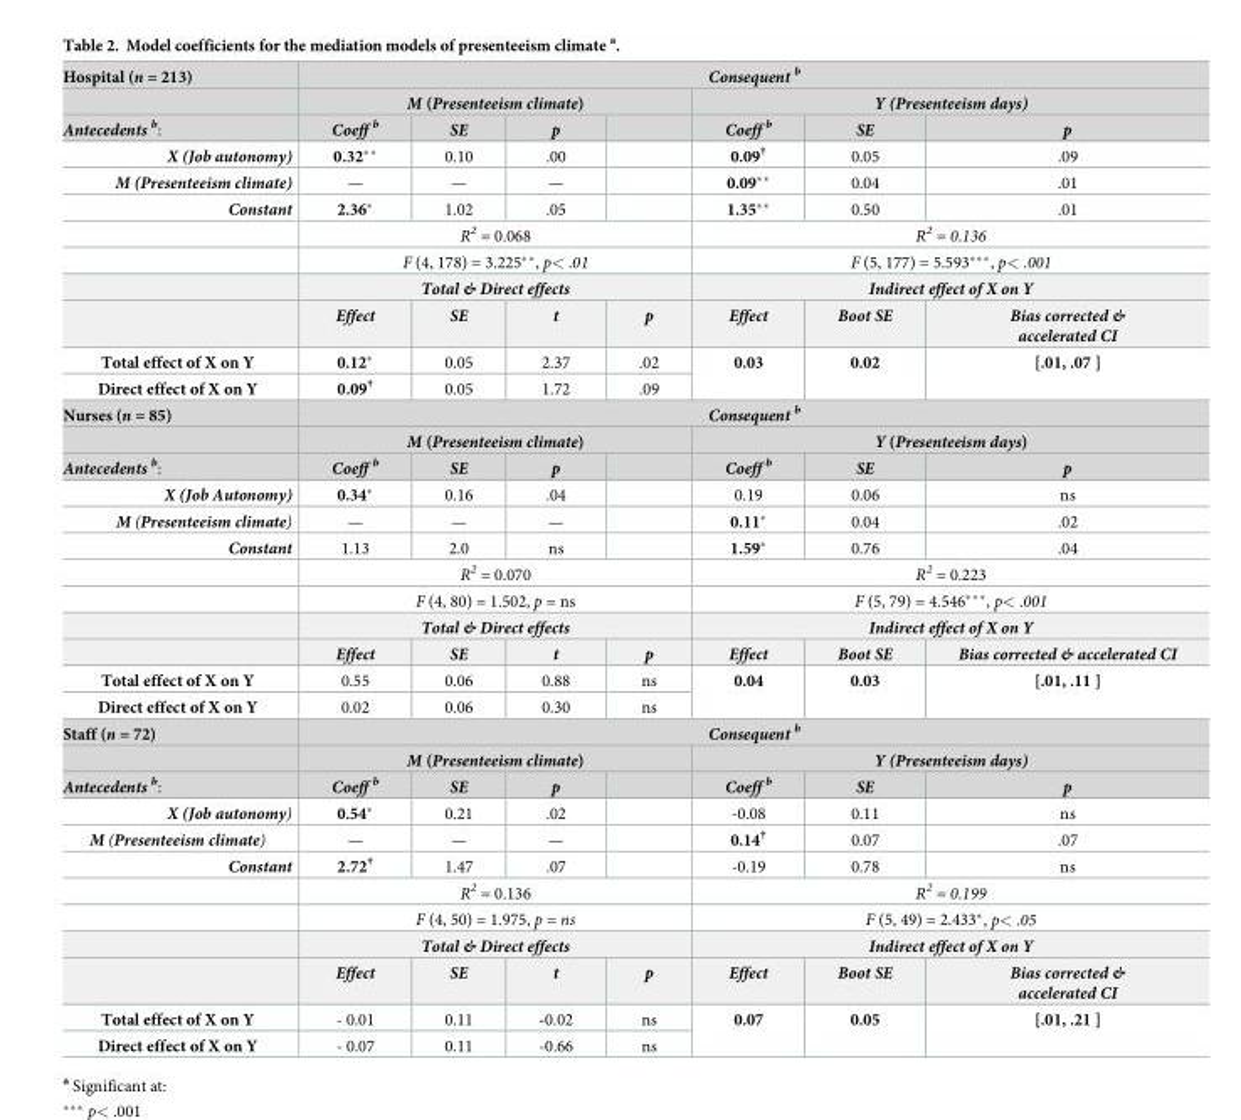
<table><tbody><tr><td rowspan="2">Hospital (n = 213)</td><td colspan="7">Consequent <sup>b</sup></td></tr><tr><td colspan="4">M (Presenteeism climate)</td><td colspan="3">Y (Presenteeism days)</td></tr><tr><td>Antecedents <sup>b</sup>:</td><td>Coeff <sup>b</sup></td><td>SE</td><td>p</td><td></td><td>Coeff <sup>b</sup></td><td>SE</td><td>p</td></tr><tr><td>X (Job autonomy)</td><td>0.32**</td><td>0.10</td><td>.00</td><td></td><td>0.09<sup>†</sup></td><td>0.05</td><td>.09</td></tr><tr><td>M (Presenteeism climate)</td><td>—</td><td>—</td><td>—</td><td></td><td>0.09**</td><td>0.04</td><td>.01</td></tr><tr><td rowspan="5">Constant</td><td>2.36*</td><td>1.02</td><td>.05</td><td></td><td>1.35**</td><td>0.50</td><td>.01</td></tr><tr><td colspan="4">R<sup>2</sup> = 0.068</td><td colspan="3">R<sup>2</sup> = 0.136</td></tr><tr><td colspan="4">F (4, 178) = 3.225**, p&lt; .01</td><td colspan="3">F (5, 177) = 5.593***, p&lt; .001</td></tr><tr><td colspan="4">Total &amp; Direct effects</td><td colspan="3">Indirect effect of X on Y</td></tr><tr><td>Effect</td><td>SE</td><td>t</td><td>p</td><td>Effect</td><td>Boot SE</td><td>Bias corrected &amp; accelerated CI</td></tr><tr><td>Total effect of X on Y</td><td>0.12*</td><td>0.05</td><td>2.37</td><td>.02</td><td rowspan="2">0.03</td><td rowspan="2">0.02</td><td rowspan="2">[.01, .07 ]</td></tr><tr><td>Direct effect of X on Y</td><td>0.09<sup>†</sup></td><td>0.05</td><td>1.72</td><td>.09</td></tr><tr><td rowspan="2">Nurses (n = 85)</td><td colspan="7">Consequent <sup>b</sup></td></tr><tr><td colspan="4">M (Presenteeism climate)</td><td colspan="3">Y (Presenteeism days)</td></tr><tr><td>Antecedents <sup>b</sup>:</td><td>Coeff <sup>b</sup></td><td>SE</td><td>p</td><td></td><td>Coeff <sup>b</sup></td><td>SE</td><td>p</td></tr><tr><td>X (Job Autonomy)</td><td>0.34*</td><td>0.16</td><td>.04</td><td></td><td>0.19</td><td>0.06</td><td>ns</td></tr><tr><td>M (Presenteeism climate)</td><td>—</td><td>—</td><td>—</td><td></td><td>0.11*</td><td>0.04</td><td>.02</td></tr><tr><td rowspan="5">Constant</td><td>1.13</td><td>2.0</td><td>ns</td><td></td><td>1.59*</td><td>0.76</td><td>.04</td></tr><tr><td colspan="4">R<sup>2</sup> = 0.070</td><td colspan="3">R<sup>2</sup> = 0.223</td></tr><tr><td colspan="4">F (4, 80) = 1.502, p = ns</td><td colspan="3">F (5, 79) = 4.546***, p&lt; .001</td></tr><tr><td colspan="4">Total &amp; Direct effects</td><td colspan="3">Indirect effect of X on Y</td></tr><tr><td>Effect</td><td>SE</td><td>t</td><td>p</td><td>Effect</td><td>Boot SE</td><td>Bias corrected &amp; accelerated CI</td></tr><tr><td>Total effect of X on Y</td><td>0.55</td><td>0.06</td><td>0.88</td><td>ns</td><td rowspan="2">0.04</td><td rowspan="2">0.03</td><td rowspan="2">[.01, .11 ]</td></tr><tr><td>Direct effect of X on Y</td><td>0.02</td><td>0.06</td><td>0.30</td><td>ns</td></tr><tr><td rowspan="2">Staff (n = 72)</td><td colspan="7">Consequent <sup>b</sup></td></tr><tr><td colspan="4">M (Presenteeism climate)</td><td colspan="3">Y (Presenteeism days)</td></tr><tr><td>Antecedents <sup>b</sup>:</td><td>Coeff <sup>b</sup></td><td>SE</td><td>p</td><td></td><td>Coeff <sup>b</sup></td><td>SE</td><td>p</td></tr><tr><td>X (Job autonomy)</td><td>0.54*</td><td>0.21</td><td>.02</td><td></td><td>-0.08</td><td>0.11</td><td>ns</td></tr><tr><td>M (Presenteeism climate)</td><td>—</td><td>—</td><td>—</td><td></td><td>0.14<sup>†</sup></td><td>0.07</td><td>.07</td></tr><tr><td rowspan="5">Constant</td><td>2.72<sup>†</sup></td><td>1.47</td><td>.07</td><td></td><td>-0.19</td><td>0.78</td><td>ns</td></tr><tr><td colspan="4">R<sup>2</sup> = 0.136</td><td colspan="3">R<sup>2</sup> = 0.199</td></tr><tr><td colspan="4">F (4, 50) = 1.975, p = ns</td><td colspan="3">F (5, 49) = 2.433*, p&lt; .05</td></tr><tr><td colspan="4">Total &amp; Direct effects</td><td colspan="3">Indirect effect of X on Y</td></tr><tr><td>Effect</td><td>SE</td><td>t</td><td>p</td><td>Effect</td><td>Boot SE</td><td>Bias corrected &amp; accelerated CI</td></tr><tr><td>Total effect of X on Y</td><td>- 0.01</td><td>0.11</td><td>-0.02</td><td>ns</td><td rowspan="2">0.07</td><td rowspan="2">0.05</td><td rowspan="2">[.01, .21 ]</td></tr><tr><td>Direct effect of X on Y</td><td>- 0.07</td><td>0.11</td><td>-0.66</td><td>ns</td></tr></tbody></table>